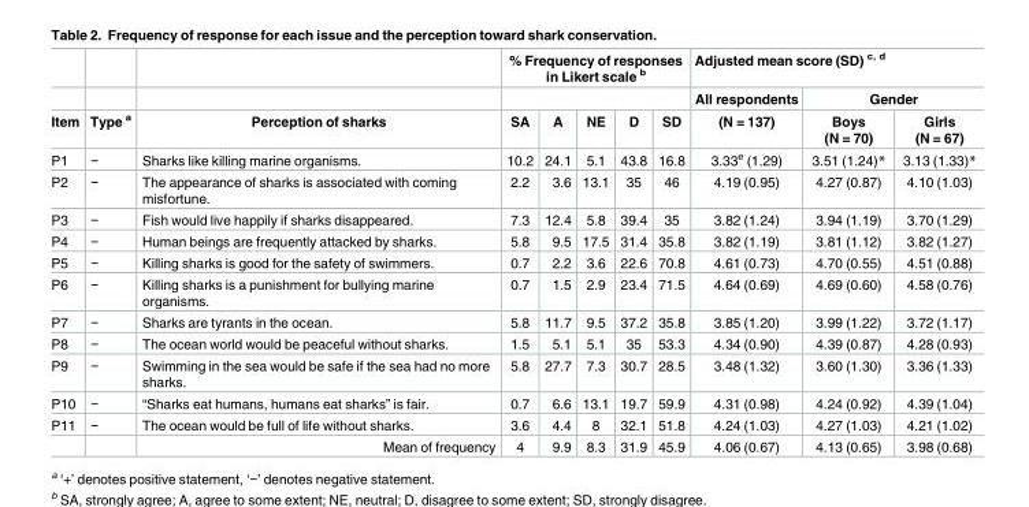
<table><thead><tr><td rowspan="3">Item</td><td rowspan="3">Type <sup>a</sup></td><td rowspan="3">Perception of sharks</td><td colspan="5">% Frequency of responses in Likert scale <sup>b</sup></td><td colspan="3">Adjusted mean score (SD) <sup>c, d</sup></td></tr><tr><td rowspan="2">SA</td><td rowspan="2">A</td><td rowspan="2">NE</td><td rowspan="2">D</td><td rowspan="2">SD</td><td rowspan="2">All respondents (N = 137)</td><td colspan="2">Gender</td></tr><tr><td>Boys (N = 70)</td><td>Girls (N = 67)</td></tr></thead><tbody><tr><td>P1</td><td>−</td><td>Sharks like killing marine organisms.</td><td>10.2</td><td>24.1</td><td>5.1</td><td>43.8</td><td>16.8</td><td>3.33<sup>e</sup> (1.29)</td><td>3.51 (1.24)*</td><td>3.13 (1.33)*</td></tr><tr><td>P2</td><td>−</td><td>The appearance of sharks is associated with coming misfortune.</td><td>2.2</td><td>3.6</td><td>13.1</td><td>35</td><td>46</td><td>4.19 (0.95)</td><td>4.27 (0.87)</td><td>4.10 (1.03)</td></tr><tr><td>P3</td><td>−</td><td>Fish would live happily if sharks disappeared.</td><td>7.3</td><td>12.4</td><td>5.8</td><td>39.4</td><td>35</td><td>3.82 (1.24)</td><td>3.94 (1.19)</td><td>3.70 (1.29)</td></tr><tr><td>P4</td><td>−</td><td>Human beings are frequently attacked by sharks.</td><td>5.8</td><td>9.5</td><td>17.5</td><td>31.4</td><td>35.8</td><td>3.82 (1.19)</td><td>3.81 (1.12)</td><td>3.82 (1.27)</td></tr><tr><td>P5</td><td>−</td><td>Killing sharks is good for the safety of swimmers.</td><td>0.7</td><td>2.2</td><td>3.6</td><td>22.6</td><td>70.8</td><td>4.61 (0.73)</td><td>4.70 (0.55)</td><td>4.51 (0.88)</td></tr><tr><td>P6</td><td>−</td><td>Killing sharks is a punishment for bullying marine organisms.</td><td>0.7</td><td>1.5</td><td>2.9</td><td>23.4</td><td>71.5</td><td>4.64 (0.69)</td><td>4.69 (0.60)</td><td>4.58 (0.76)</td></tr><tr><td>P7</td><td>−</td><td>Sharks are tyrants in the ocean.</td><td>5.8</td><td>11.7</td><td>9.5</td><td>37.2</td><td>35.8</td><td>3.85 (1.20)</td><td>3.99 (1.22)</td><td>3.72 (1.17)</td></tr><tr><td>P8</td><td>−</td><td>The ocean world would be peaceful without sharks.</td><td>1.5</td><td>5.1</td><td>5.1</td><td>35</td><td>53.3</td><td>4.34 (0.90)</td><td>4.39 (0.87)</td><td>4.28 (0.93)</td></tr><tr><td>P9</td><td>−</td><td>Swimming in the sea would be safe if the sea had no more sharks.</td><td>5.8</td><td>27.7</td><td>7.3</td><td>30.7</td><td>28.5</td><td>3.48 (1.32)</td><td>3.60 (1.30)</td><td>3.36 (1.33)</td></tr><tr><td>P10</td><td>−</td><td>“Sharks eat humans, humans eat sharks” is fair.</td><td>0.7</td><td>6.6</td><td>13.1</td><td>19.7</td><td>59.9</td><td>4.31 (0.98)</td><td>4.24 (0.92)</td><td>4.39 (1.04)</td></tr><tr><td rowspan="2">P11</td><td>−</td><td>The ocean would be full of life without sharks.</td><td>3.6</td><td>4.4</td><td>8</td><td>32.1</td><td>51.8</td><td>4.24 (1.03)</td><td>4.27 (1.03)</td><td>4.21 (1.02)</td></tr><tr><td></td><td>Mean of frequency</td><td>4</td><td>9.9</td><td>8.3</td><td>31.9</td><td>45.9</td><td>4.06 (0.67)</td><td>4.13 (0.65)</td><td>3.98 (0.68)</td></tr></tbody></table>